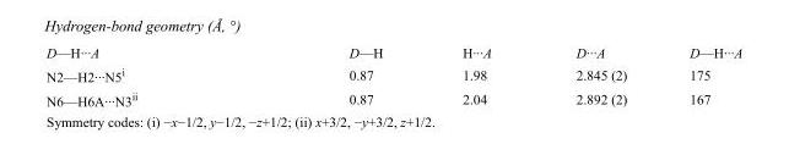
<table><tbody><tr><td>D—H···A</td><td>D—H</td><td>H···A</td><td>D···A</td><td>D—H···A</td></tr><tr><td>N2—H2···N5<sup>i</sup></td><td>0.87</td><td>1.98</td><td>2.845 (2)</td><td>175</td></tr><tr><td>N6—H6A···N3<sup>ii</sup></td><td>0.87</td><td>2.04</td><td>2.892 (2)</td><td>167</td></tr></tbody></table>